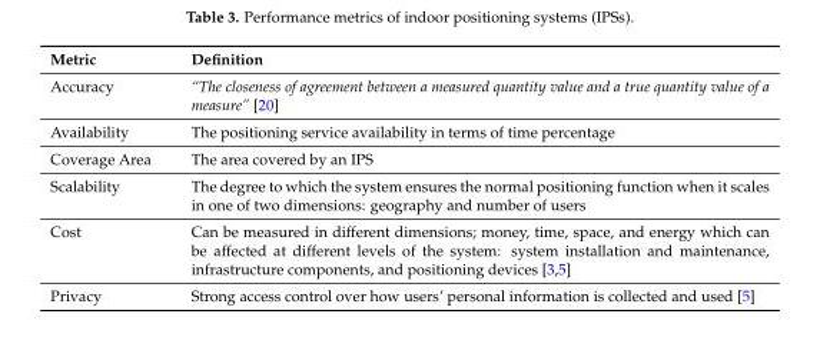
<table><thead><tr><td>Metric</td><td>Definition</td></tr></thead><tbody><tr><td>Accuracy</td><td>“The closeness of agreement between a measured quantity value and a true quantity value of a measure” [20]</td></tr><tr><td>Availability</td><td>The positioning service availability in terms of time percentage</td></tr><tr><td>Coverage Area</td><td>The area covered by an IPS</td></tr><tr><td>Scalability</td><td>The degree to which the system ensures the normal positioning function when it scales in one of two dimensions: geography and number of users</td></tr><tr><td>Cost</td><td>Can be measured in different dimensions; money, time, space, and energy which can be affected at different levels of the system: system installation and maintenance, infrastructure components, and positioning devices [3,5]</td></tr><tr><td>Privacy</td><td>Strong access control over how users’ personal information is collected and used [5]</td></tr></tbody></table>